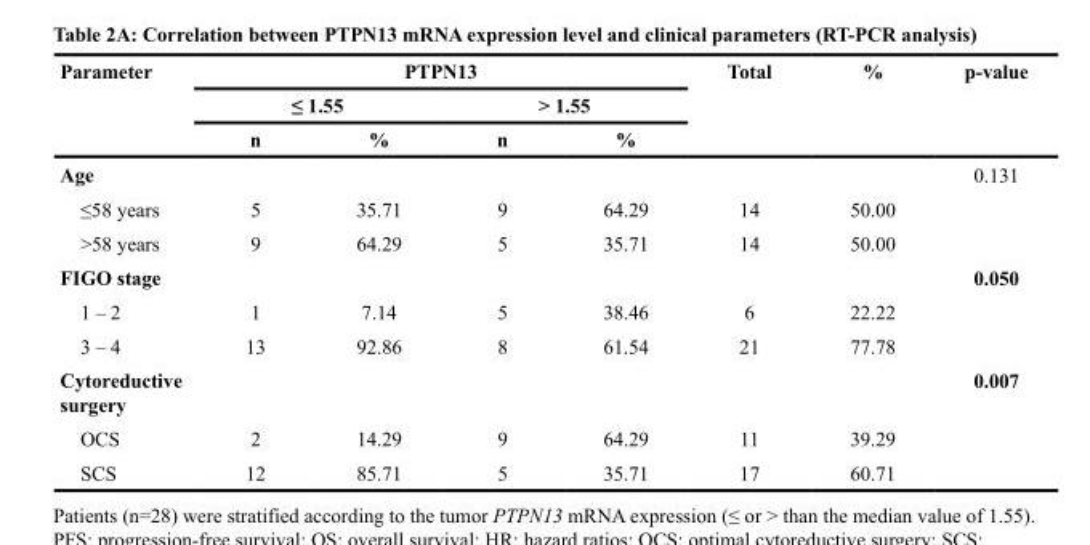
<table><thead><tr><td rowspan="3">Parameter</td><td colspan="4">PTPN13</td><td rowspan="3">Total</td><td rowspan="3">%</td><td rowspan="3">p-value</td></tr><tr><td colspan="2">≤ 1.55</td><td colspan="2">&gt; 1.55</td></tr><tr><td>n</td><td>%</td><td>n</td><td>%</td></tr></thead><tbody><tr><td>Age</td><td></td><td></td><td></td><td></td><td></td><td></td><td>0.131</td></tr><tr><td>≤58 years</td><td>5</td><td>35.71</td><td>9</td><td>64.29</td><td>14</td><td>50.00</td><td></td></tr><tr><td>&gt;58 years</td><td>9</td><td>64.29</td><td>5</td><td>35.71</td><td>14</td><td>50.00</td><td></td></tr><tr><td>FIGO stage</td><td></td><td></td><td></td><td></td><td></td><td></td><td>0.050</td></tr><tr><td>1 – 2</td><td>1</td><td>7.14</td><td>5</td><td>38.46</td><td>6</td><td>22.22</td><td></td></tr><tr><td>3 – 4</td><td>13</td><td>92.86</td><td>8</td><td>61.54</td><td>21</td><td>77.78</td><td></td></tr><tr><td>Cytoreductive surgery</td><td></td><td></td><td></td><td></td><td></td><td></td><td>0.007</td></tr><tr><td>OCS</td><td>2</td><td>14.29</td><td>9</td><td>64.29</td><td>11</td><td>39.29</td><td></td></tr><tr><td>SCS</td><td>12</td><td>85.71</td><td>5</td><td>35.71</td><td>17</td><td>60.71</td><td></td></tr></tbody></table>